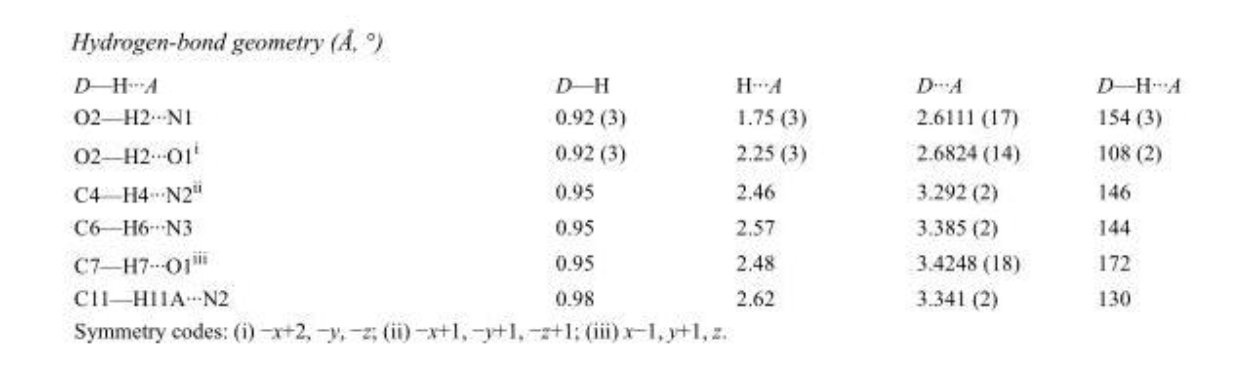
<table><tbody><tr><td>D—H···A</td><td>D—H</td><td>H···A</td><td>D···A</td><td>D—H···A</td></tr><tr><td>O2—H2···N1</td><td>0.92 (3)</td><td>1.75 (3)</td><td>2.6111 (17)</td><td>154 (3)</td></tr><tr><td>O2—H2···O1<sup>i</sup></td><td>0.92 (3)</td><td>2.25 (3)</td><td>2.6824 (14)</td><td>108 (2)</td></tr><tr><td>C4—H4···N2<sup>ii</sup></td><td>0.95</td><td>2.46</td><td>3.292 (2)</td><td>146</td></tr><tr><td>C6—H6···N3</td><td>0.95</td><td>2.57</td><td>3.385 (2)</td><td>144</td></tr><tr><td>C7—H7···O1<sup>iii</sup></td><td>0.95</td><td>2.48</td><td>3.4248 (18)</td><td>172</td></tr><tr><td>C11—H11A···N2</td><td>0.98</td><td>2.62</td><td>3.341 (2)</td><td>130</td></tr></tbody></table>